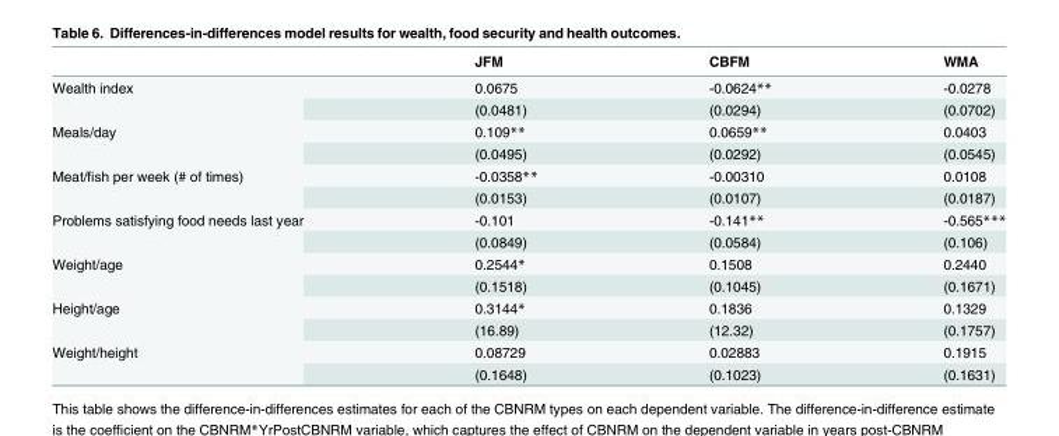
<table><thead><tr><td></td><td>JFM</td><td>CBFM</td><td>WMA</td></tr></thead><tbody><tr><td rowspan="2">Wealth index</td><td>0.0675</td><td>-0.0624**</td><td>-0.0278</td></tr><tr><td>(0.0481)</td><td>(0.0294)</td><td>(0.0702)</td></tr><tr><td rowspan="2">Meals/day</td><td>0.109**</td><td>0.0659**</td><td>0.0403</td></tr><tr><td>(0.0495)</td><td>(0.0292)</td><td>(0.0545)</td></tr><tr><td rowspan="2">Meat/fish per week (# of times)</td><td>-0.0358**</td><td>-0.00310</td><td>0.0108</td></tr><tr><td>(0.0153)</td><td>(0.0107)</td><td>(0.0187)</td></tr><tr><td rowspan="2">Problems satisfying food needs last year</td><td>-0.101</td><td>-0.141**</td><td>-0.565***</td></tr><tr><td>(0.0849)</td><td>(0.0584)</td><td>(0.106)</td></tr><tr><td rowspan="2">Weight/age</td><td>0.2544*</td><td>0.1508</td><td>0.2440</td></tr><tr><td>(0.1518)</td><td>(0.1045)</td><td>(0.1671)</td></tr><tr><td rowspan="2">Height/age</td><td>0.3144*</td><td>0.1836</td><td>0.1329</td></tr><tr><td>(16.89)</td><td>(12.32)</td><td>(0.1757)</td></tr><tr><td rowspan="2">Weight/height</td><td>0.08729</td><td>0.02883</td><td>0.1915</td></tr><tr><td>(0.1648)</td><td>(0.1023)</td><td>(0.1631)</td></tr></tbody></table>